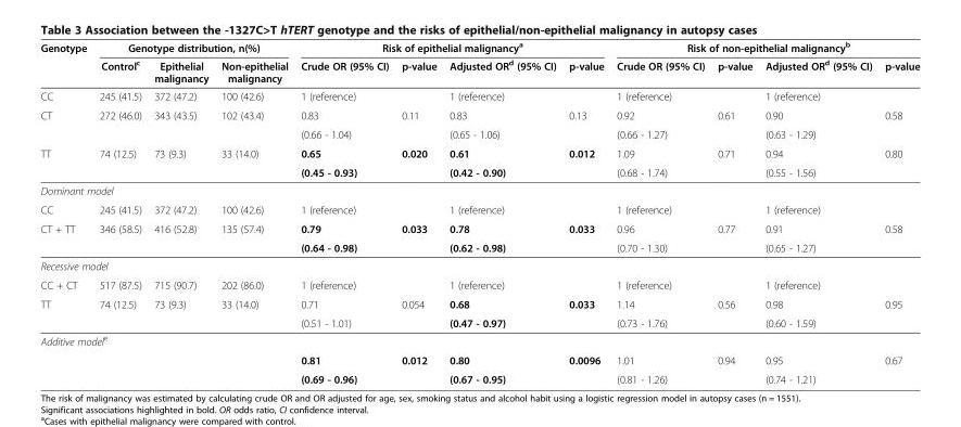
<table><thead><tr><td rowspan="2">Genotype</td><td colspan="3">Genotype distribution, n(%)</td><td colspan="4">Risk of epithelial malignancy<sup>a</sup></td><td colspan="4">Risk of non-epithelial malignancy<sup>b</sup></td></tr><tr><td>Control<sup>c</sup></td><td>Epithelial malignancy</td><td>Non-epithelial malignancy</td><td>Crude OR (95% CI)</td><td>p-value</td><td>Adjusted OR<sup>d</sup> (95% CI)</td><td>p-value</td><td>Crude OR (95% CI)</td><td>p-value</td><td>Adjusted OR<sup>d</sup> (95% CI)</td><td>p-value</td></tr></thead><tbody><tr><td>CC</td><td>245 (41.5)</td><td>372 (47.2)</td><td>100 (42.6)</td><td>1 (reference)</td><td></td><td>1 (reference)</td><td></td><td>1 (reference)</td><td></td><td>1 (reference)</td><td></td></tr><tr><td rowspan="2">CT</td><td>272 (46.0)</td><td>343 (43.5)</td><td>102 (43.4)</td><td>0.83</td><td>0.11</td><td>0.83</td><td>0.13</td><td>0.92</td><td>0.61</td><td>0.90</td><td>0.58</td></tr><tr><td></td><td></td><td></td><td>(0.66 - 1.04)</td><td></td><td>(0.65 - 1.06)</td><td></td><td>(0.66 - 1.27)</td><td></td><td>(0.63 - 1.29)</td><td></td></tr><tr><td rowspan="2">TT</td><td>74 (12.5)</td><td>73 (9.3)</td><td>33 (14.0)</td><td>0.65</td><td>0.020</td><td>0.61</td><td>0.012</td><td>1.09</td><td>0.71</td><td>0.94</td><td>0.80</td></tr><tr><td></td><td></td><td></td><td>(0.45 - 0.93)</td><td></td><td>(0.42 - 0.90)</td><td></td><td>(0.68 - 1.74)</td><td></td><td>(0.55 - 1.56)</td><td></td></tr><tr><td colspan="12">Dominant model</td></tr><tr><td>CC</td><td>245 (41.5)</td><td>372 (47.2)</td><td>100 (42.6)</td><td>1 (reference)</td><td></td><td>1 (reference)</td><td></td><td>1 (reference)</td><td></td><td>1 (reference)</td><td></td></tr><tr><td rowspan="2">CT + TT</td><td>346 (58.5)</td><td>416 (52.8)</td><td>135 (57.4)</td><td>0.79</td><td>0.033</td><td>0.78</td><td>0.033</td><td>0.96</td><td>0.77</td><td>0.91</td><td>0.58</td></tr><tr><td></td><td></td><td></td><td>(0.64 - 0.98)</td><td></td><td>(0.62 - 0.98)</td><td></td><td>(0.70 - 1.30)</td><td></td><td>(0.65 - 1.27)</td><td></td></tr><tr><td colspan="12">Recessive model</td></tr><tr><td>CC + CT</td><td>517 (87.5)</td><td>715 (90.7)</td><td>202 (86.0)</td><td>1 (reference)</td><td></td><td>1 (reference)</td><td></td><td>1 (reference)</td><td></td><td>1 (reference)</td><td></td></tr><tr><td rowspan="2">TT</td><td>74 (12.5)</td><td>73 (9.3)</td><td>33 (14.0)</td><td>0.71</td><td>0.054</td><td>0.68</td><td>0.033</td><td>1.14</td><td>0.56</td><td>0.98</td><td>0.95</td></tr><tr><td></td><td></td><td></td><td>(0.51 - 1.01)</td><td></td><td>(0.47 - 0.97)</td><td></td><td>(0.73 - 1.76)</td><td></td><td>(0.60 - 1.59)</td><td></td></tr><tr><td colspan="12">Additive model<sup>e</sup></td></tr><tr><td></td><td></td><td></td><td></td><td>0.81</td><td>0.012</td><td>0.80</td><td>0.0096</td><td>1.01</td><td>0.94</td><td>0.95</td><td>0.67</td></tr><tr><td></td><td></td><td></td><td></td><td>(0.69 - 0.96)</td><td></td><td>(0.67 - 0.95)</td><td></td><td>(0.81 - 1.26)</td><td></td><td>(0.74 - 1.21)</td><td></td></tr></tbody></table>